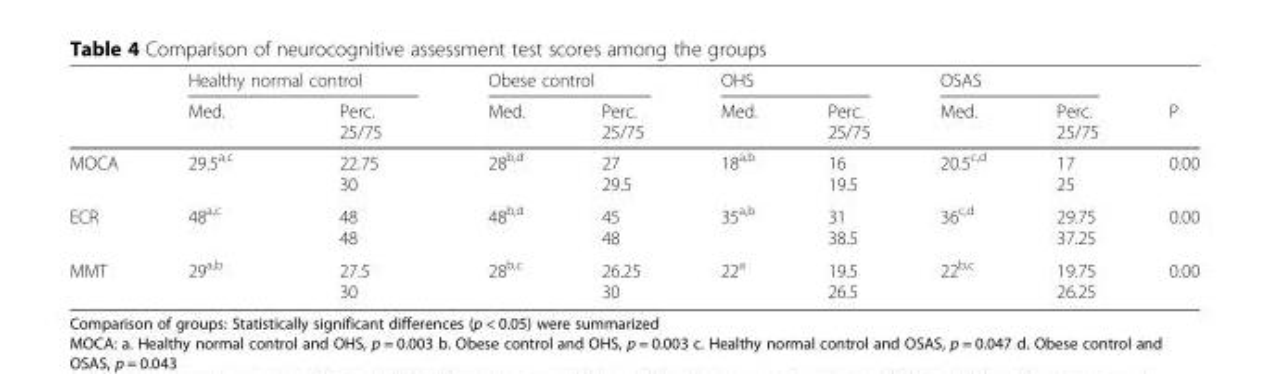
<table><thead><tr><td rowspan="2"></td><td colspan="2">Healthy normal control</td><td colspan="2">Obese control</td><td colspan="2">OHS</td><td colspan="2">OSAS</td><td rowspan="2">P</td></tr><tr><td>Med.</td><td>Perc. 25/75</td><td>Med.</td><td>Perc. 25/75</td><td>Med.</td><td>Perc. 25/75</td><td>Med.</td><td>Perc. 25/75</td></tr></thead><tbody><tr><td>MOCA</td><td>29.5<sup>a,c</sup></td><td>22.75 30</td><td>28<sup>b,d</sup></td><td>27 29.5</td><td>18<sup>a,b</sup></td><td>16 19.5</td><td>20.5<sup>c,d</sup></td><td>17 25</td><td>0.00</td></tr><tr><td>ECR</td><td>48<sup>a,c</sup></td><td>48 48</td><td>48<sup>b,d</sup></td><td>45 48</td><td>35<sup>a,b</sup></td><td>31 38.5</td><td>36<sup>c,d</sup></td><td>29.75 37.25</td><td>0.00</td></tr><tr><td>MMT</td><td>29<sup>a,b</sup></td><td>27.5 30</td><td>28<sup>b,c</sup></td><td>26.25 30</td><td>22<sup>a</sup></td><td>19.5 26.5</td><td>22<sup>b,c</sup></td><td>19.75 26.25</td><td>0.00</td></tr></tbody></table>